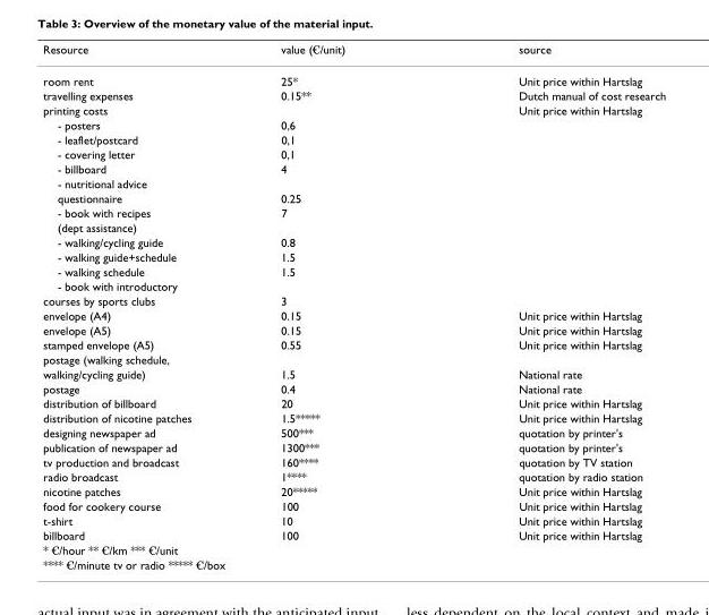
<table><thead><tr><td>Resource</td><td>value (€/unit)</td><td>source</td></tr></thead><tbody><tr><td>room rent</td><td>25*</td><td>Unit price within Hartslag</td></tr><tr><td>travelling expenses</td><td>0.15**</td><td>Dutch manual of cost research</td></tr><tr><td>printing costs</td><td></td><td>Unit price within Hartslag</td></tr><tr><td>- posters</td><td>0,6</td><td></td></tr><tr><td>- leaflet/postcard</td><td>0,1</td><td></td></tr><tr><td>- covering letter</td><td>0,1</td><td></td></tr><tr><td>- billboard</td><td>4</td><td></td></tr><tr><td colspan="3">- nutritional advice</td></tr><tr><td>questionnaire</td><td>0.25</td><td></td></tr><tr><td>- book with recipes</td><td>7</td><td></td></tr><tr><td colspan="3">(dept assistance)</td></tr><tr><td>- walking/cycling guide</td><td>0.8</td><td></td></tr><tr><td>- walking guide+schedule</td><td>1.5</td><td></td></tr><tr><td>- walking schedule</td><td>1.5</td><td></td></tr><tr><td colspan="3">- book with introductory</td></tr><tr><td>courses by sports clubs</td><td>3</td><td></td></tr><tr><td>envelope (A4)</td><td>0.15</td><td>Unit price within Hartslag</td></tr><tr><td>envelope (A5)</td><td>0.15</td><td>Unit price within Hartslag</td></tr><tr><td>stamped envelope (A5)</td><td>0.55</td><td>Unit price within Hartslag</td></tr><tr><td colspan="3">postage (walking schedule,</td></tr><tr><td>walking/cycling guide)</td><td>1.5</td><td>National rate</td></tr><tr><td>postage</td><td>0.4</td><td>National rate</td></tr><tr><td>distribution of billboard</td><td>20</td><td>Unit price within Hartslag</td></tr><tr><td>distribution of nicotine patches</td><td>1.5*****</td><td>Unit price within Hartslag</td></tr><tr><td>designing newspaper ad</td><td>500***</td><td>quotation by printer&#x27;s</td></tr><tr><td>publication of newspaper ad</td><td>1300***</td><td>quotation by printer&#x27;s</td></tr><tr><td>tv production and broadcast</td><td>160****</td><td>quotation by TV station</td></tr><tr><td>radio broadcast</td><td>1****</td><td>quotation by radio station</td></tr><tr><td>nicotine patches</td><td>20*****</td><td>Unit price within Hartslag</td></tr><tr><td>food for cookery course</td><td>100</td><td>Unit price within Hartslag</td></tr><tr><td>t-shirt</td><td>10</td><td>Unit price within Hartslag</td></tr><tr><td>billboard</td><td>100</td><td>Unit price within Hartslag</td></tr><tr><td colspan="3">* €/hour ** €/km *** €/unit</td></tr><tr><td>**** €/minute tv or radio ***** €/box</td><td></td><td></td></tr></tbody></table>